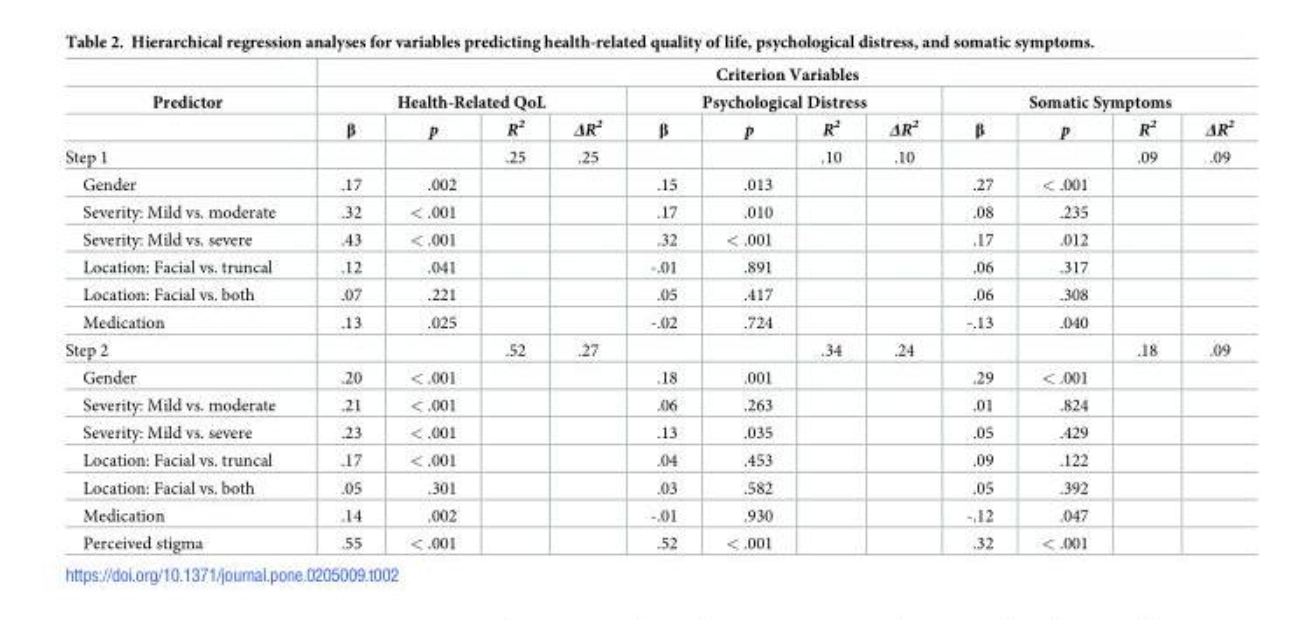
<table><thead><tr><td rowspan="3">Predictor</td><td colspan="12">Criterion Variables</td></tr><tr><td colspan="4">Health-Related QoL</td><td colspan="4">Psychological Distress</td><td colspan="4">Somatic Symptoms</td></tr><tr><td>β</td><td>p</td><td>R<sup>2</sup></td><td>ΔR<sup>2</sup></td><td>β</td><td>p</td><td>R<sup>2</sup></td><td>ΔR<sup>2</sup></td><td>β</td><td>p</td><td>R<sup>2</sup></td><td>ΔR<sup>2</sup></td></tr></thead><tbody><tr><td>Step 1</td><td></td><td></td><td>.25</td><td>.25</td><td></td><td></td><td>.10</td><td>.10</td><td></td><td></td><td>.09</td><td>.09</td></tr><tr><td>Gender</td><td>.17</td><td>.002</td><td></td><td></td><td>.15</td><td>.013</td><td></td><td></td><td>.27</td><td>&lt; .001</td><td></td><td></td></tr><tr><td>Severity: Mild vs. moderate</td><td>.32</td><td>&lt; .001</td><td></td><td></td><td>.17</td><td>.010</td><td></td><td></td><td>.08</td><td>.235</td><td></td><td></td></tr><tr><td>Severity: Mild vs. severe</td><td>.43</td><td>&lt; .001</td><td></td><td></td><td>.32</td><td>&lt; .001</td><td></td><td></td><td>.17</td><td>.012</td><td></td><td></td></tr><tr><td>Location: Facial vs. truncal</td><td>.12</td><td>.041</td><td></td><td></td><td>-.01</td><td>.891</td><td></td><td></td><td>.06</td><td>.317</td><td></td><td></td></tr><tr><td>Location: Facial vs. both</td><td>.07</td><td>.221</td><td></td><td></td><td>.05</td><td>.417</td><td></td><td></td><td>.06</td><td>.308</td><td></td><td></td></tr><tr><td>Medication</td><td>.13</td><td>.025</td><td></td><td></td><td>-.02</td><td>.724</td><td></td><td></td><td>-.13</td><td>.040</td><td></td><td></td></tr><tr><td>Step 2</td><td></td><td></td><td>.52</td><td>.27</td><td></td><td></td><td>.34</td><td>.24</td><td></td><td></td><td>.18</td><td>.09</td></tr><tr><td>Gender</td><td>.20</td><td>&lt; .001</td><td></td><td></td><td>.18</td><td>.001</td><td></td><td></td><td>.29</td><td>&lt; .001</td><td></td><td></td></tr><tr><td>Severity: Mild vs. moderate</td><td>.21</td><td>&lt; .001</td><td></td><td></td><td>.06</td><td>.263</td><td></td><td></td><td>.01</td><td>.824</td><td></td><td></td></tr><tr><td>Severity: Mild vs. severe</td><td>.23</td><td>&lt; .001</td><td></td><td></td><td>.13</td><td>.035</td><td></td><td></td><td>.05</td><td>.429</td><td></td><td></td></tr><tr><td>Location: Facial vs. truncal</td><td>.17</td><td>&lt; .001</td><td></td><td></td><td>.04</td><td>.453</td><td></td><td></td><td>.09</td><td>.122</td><td></td><td></td></tr><tr><td>Location: Facial vs. both</td><td>.05</td><td>.301</td><td></td><td></td><td>.03</td><td>.582</td><td></td><td></td><td>.05</td><td>.392</td><td></td><td></td></tr><tr><td>Medication</td><td>.14</td><td>.002</td><td></td><td></td><td>-.01</td><td>.930</td><td></td><td></td><td>-.12</td><td>.047</td><td></td><td></td></tr><tr><td>Perceived stigma</td><td>.55</td><td>&lt; .001</td><td></td><td></td><td>.52</td><td>&lt; .001</td><td></td><td></td><td>.32</td><td>&lt; .001</td><td></td><td></td></tr></tbody></table>